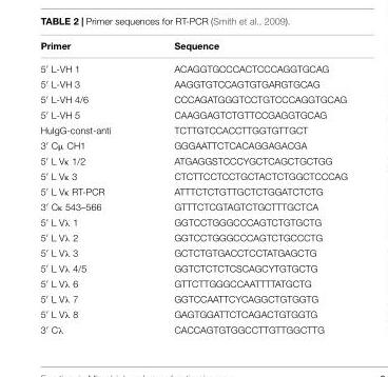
<table><thead><tr><td>Primer</td><td>Sequence</td></tr></thead><tbody><tr><td>5′ L-VH 1</td><td>ACAGGTGCCCACTCCCAGGTGCAG</td></tr><tr><td>5′ L-VH 3</td><td>AAGGTGTCCAGTGTGARGTGCAG</td></tr><tr><td>5′ L-VH 4/6</td><td>CCCAGATGGGTCCTGTCCCAGGTGCAG</td></tr><tr><td>5′ L-VH 5</td><td>CAAGGAGTCTGTTCCGAGGTGCAG</td></tr><tr><td>HuIgG-const-anti</td><td>TCTTGTCCACCTTGGTGTTGCT</td></tr><tr><td>3′ Cµ CH1</td><td>GGGAATTCTCACAGGAGACGA</td></tr><tr><td>5′ L Vκ 1/2</td><td>ATGAGGSTCCCYGCTCAGCTGCTGG</td></tr><tr><td>5′ L Vκ 3</td><td>CTCTTCCTCCTGCTACTCTGGCTCCCAG</td></tr><tr><td>5′ L Vκ RT-PCR</td><td>ATTTCTCTGTTGCTCTGGATCTCTG</td></tr><tr><td>3′ Cκ 543–566</td><td>GTTTCTCGTAGTCTGCTTTGCTCA</td></tr><tr><td>5′ L Vλ 1</td><td>GGTCCTGGGCCCAGTCTGTGCTG</td></tr><tr><td>5′ L Vλ 2</td><td>GGTCCTGGGCCCAGTCTGCCCTG</td></tr><tr><td>5′ L Vλ 3</td><td>GCTCTGTGACCTCCTATGAGCTG</td></tr><tr><td>5′ L Vλ 4/5</td><td>GGTCTCTCTCSCAGCYTGTGCTG</td></tr><tr><td>5′ L Vλ 6</td><td>GTTCTTGGGCCAATTTTATGCTG</td></tr><tr><td>5′ L Vλ 7</td><td>GGTCCAATTCYCAGGCTGTGGTG</td></tr><tr><td>5′ L Vλ 8</td><td>GAGTGGATTCTCAGACTGTGGTG</td></tr><tr><td>3′ Cλ</td><td>CACCAGTGTGGCCTTGTTGGCTTG</td></tr></tbody></table>